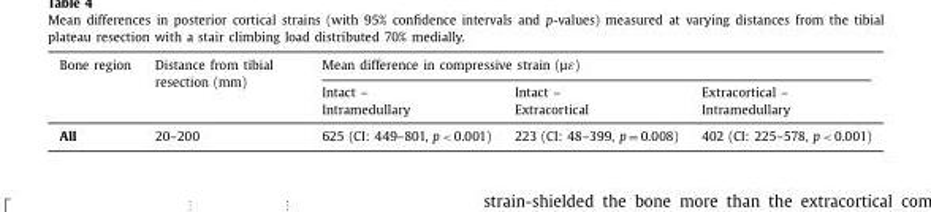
<table><thead><tr><td rowspan="3">Bone region</td><td rowspan="3">Distance from tibial resection (mm)</td><td colspan="3">Mean difference in compressive strain (με)</td></tr><tr><td rowspan="2">Intact – Intramedullary</td><td rowspan="2">Intact – Extracortical</td><td rowspan="2">Extracortical – Intramedullary</td></tr><tr></tr></thead><tbody><tr><td>All</td><td>20–200</td><td>625 (CI: 449–801, p &lt; 0.001)</td><td>223 (CI: 48–399, p = 0.008)</td><td>402 (CI: 225–578, p &lt; 0.001)</td></tr></tbody></table>